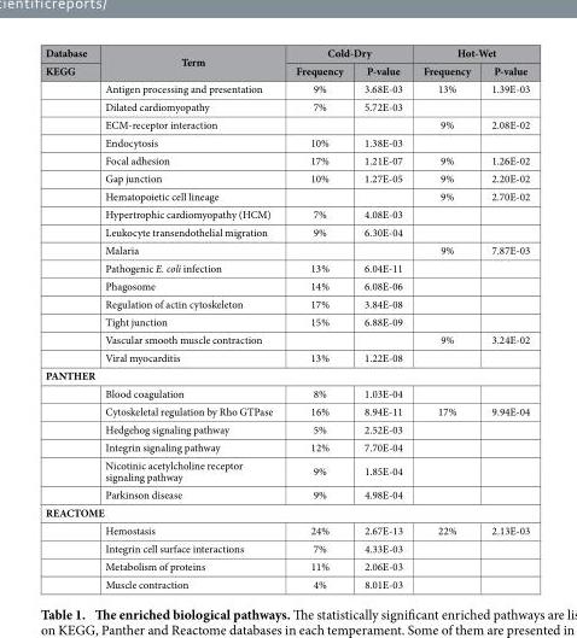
<table><thead><tr><td rowspan="2">Database KEGG</td><td rowspan="2">Term</td><td colspan="2">Cold-Dry</td><td colspan="2">Hot-Wet</td></tr><tr><td>Frequency</td><td>P-value</td><td>Frequency</td><td>P-value</td></tr></thead><tbody><tr><td></td><td>Antigen processing and presentation</td><td>9%</td><td>3.68E-03</td><td>13%</td><td>1.39E-03</td></tr><tr><td></td><td>Dilated cardiomyopathy</td><td>7%</td><td>5.72E-03</td><td></td><td></td></tr><tr><td></td><td>ECM-receptor interaction</td><td></td><td></td><td>9%</td><td>2.08E-02</td></tr><tr><td></td><td>Endocytosis</td><td>10%</td><td>1.38E-03</td><td></td><td></td></tr><tr><td></td><td>Focal adhesion</td><td>17%</td><td>1.21E-07</td><td>9%</td><td>1.26E-02</td></tr><tr><td></td><td>Gap junction</td><td>10%</td><td>1.27E-05</td><td>9%</td><td>2.20E-02</td></tr><tr><td></td><td>Hematopoietic cell lineage</td><td></td><td></td><td>9%</td><td>2.70E-02</td></tr><tr><td></td><td>Hypertrophic cardiomyopathy (HCM)</td><td>7%</td><td>4.08E-03</td><td></td><td></td></tr><tr><td></td><td>Leukocyte transendothelial migration</td><td>9%</td><td>6.30E-04</td><td></td><td></td></tr><tr><td></td><td>Malaria</td><td></td><td></td><td>9%</td><td>7.87E-03</td></tr><tr><td></td><td>Pathogenic E. coli infection</td><td>13%</td><td>6.04E-11</td><td></td><td></td></tr><tr><td></td><td>Phagosome</td><td>14%</td><td>6.08E-06</td><td></td><td></td></tr><tr><td></td><td>Regulation of actin cytoskeleton</td><td>17%</td><td>3.84E-08</td><td></td><td></td></tr><tr><td></td><td>Tight junction</td><td>15%</td><td>6.88E-09</td><td></td><td></td></tr><tr><td></td><td>Vascular smooth muscle contraction</td><td></td><td></td><td>9%</td><td>3.24E-02</td></tr><tr><td></td><td>Viral myocarditis</td><td>13%</td><td>1.22E-08</td><td></td><td></td></tr><tr><td colspan="6">PANTHER</td></tr><tr><td></td><td>Blood coagulation</td><td>8%</td><td>1.03E-04</td><td></td><td></td></tr><tr><td></td><td>Cytoskeletal regulation by Rho GTPase</td><td>16%</td><td>8.94E-11</td><td>17%</td><td>9.94E-04</td></tr><tr><td></td><td>Hedgehog signaling pathway</td><td>5%</td><td>2.52E-03</td><td></td><td></td></tr><tr><td></td><td>Integrin signaling pathway</td><td>12%</td><td>7.70E-04</td><td></td><td></td></tr><tr><td></td><td>Nicotinic acetylcholine receptor signaling pathway</td><td>9%</td><td>1.85E-04</td><td></td><td></td></tr><tr><td></td><td>Parkinson disease</td><td>9%</td><td>4.98E-04</td><td></td><td></td></tr><tr><td colspan="6">REACTOME</td></tr><tr><td></td><td>Hemostasis</td><td>24%</td><td>2.67E-13</td><td>22%</td><td>2.13E-03</td></tr><tr><td></td><td>Integrin cell surface interactions</td><td>7%</td><td>4.33E-03</td><td></td><td></td></tr><tr><td></td><td>Metabolism of proteins</td><td>11%</td><td>2.06E-03</td><td></td><td></td></tr><tr><td></td><td>Muscle contraction</td><td>4%</td><td>8.01E-03</td><td></td><td></td></tr></tbody></table>